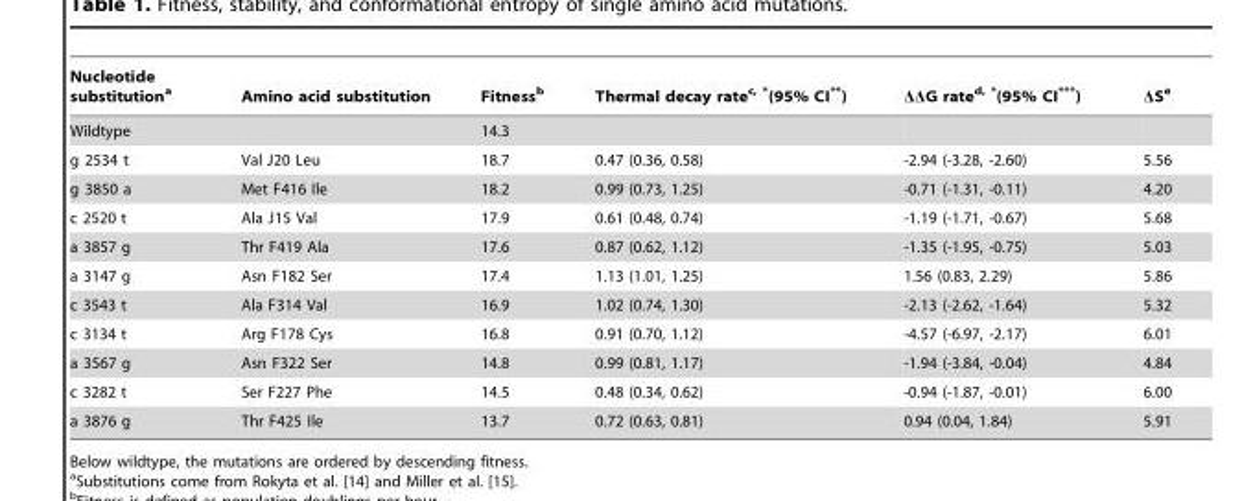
<table><thead><tr><td>Nucleotide substitution<sup>a</sup></td><td>Amino acid substitution</td><td>Fitness<sup>b</sup></td><td>Thermal decay ratec, *(95% CI**)</td><td>ΔΔG rated, *(95% CI***)</td><td>ΔS<sup>e</sup></td></tr></thead><tbody><tr><td>Wildtype</td><td></td><td>14.3</td><td></td><td></td><td></td></tr><tr><td>g 2534 t</td><td>Val J20 Leu</td><td>18.7</td><td>0.47 (0.36, 0.58)</td><td>-2.94 (-3.28, -2.60)</td><td>5.56</td></tr><tr><td>g 3850 a</td><td>Met F416 Ile</td><td>18.2</td><td>0.99 (0.73, 1.25)</td><td>-0.71 (-1.31, -0.11)</td><td>4.20</td></tr><tr><td>c 2520 t</td><td>Ala J15 Val</td><td>17.9</td><td>0.61 (0.48, 0.74)</td><td>-1.19 (-1.71, -0.67)</td><td>5.68</td></tr><tr><td>a 3857 g</td><td>Thr F419 Ala</td><td>17.6</td><td>0.87 (0.62, 1.12)</td><td>-1.35 (-1.95, -0.75)</td><td>5.03</td></tr><tr><td>a 3147 g</td><td>Asn F182 Ser</td><td>17.4</td><td>1.13 (1.01, 1.25)</td><td>1.56 (0.83, 2.29)</td><td>5.86</td></tr><tr><td>c 3543 t</td><td>Ala F314 Val</td><td>16.9</td><td>1.02 (0.74, 1.30)</td><td>-2.13 (-2.62, -1.64)</td><td>5.32</td></tr><tr><td>c 3134 t</td><td>Arg F178 Cys</td><td>16.8</td><td>0.91 (0.70, 1.12)</td><td>-4.57 (-6.97, -2.17)</td><td>6.01</td></tr><tr><td>a 3567 g</td><td>Asn F322 Ser</td><td>14.8</td><td>0.99 (0.81, 1.17)</td><td>-1.94 (-3.84, -0.04)</td><td>4.84</td></tr><tr><td>c 3282 t</td><td>Ser F227 Phe</td><td>14.5</td><td>0.48 (0.34, 0.62)</td><td>-0.94 (-1.87, -0.01)</td><td>6.00</td></tr><tr><td>a 3876 g</td><td>Thr F425 Ile</td><td>13.7</td><td>0.72 (0.63, 0.81)</td><td>0.94 (0.04, 1.84)</td><td>5.91</td></tr></tbody></table>